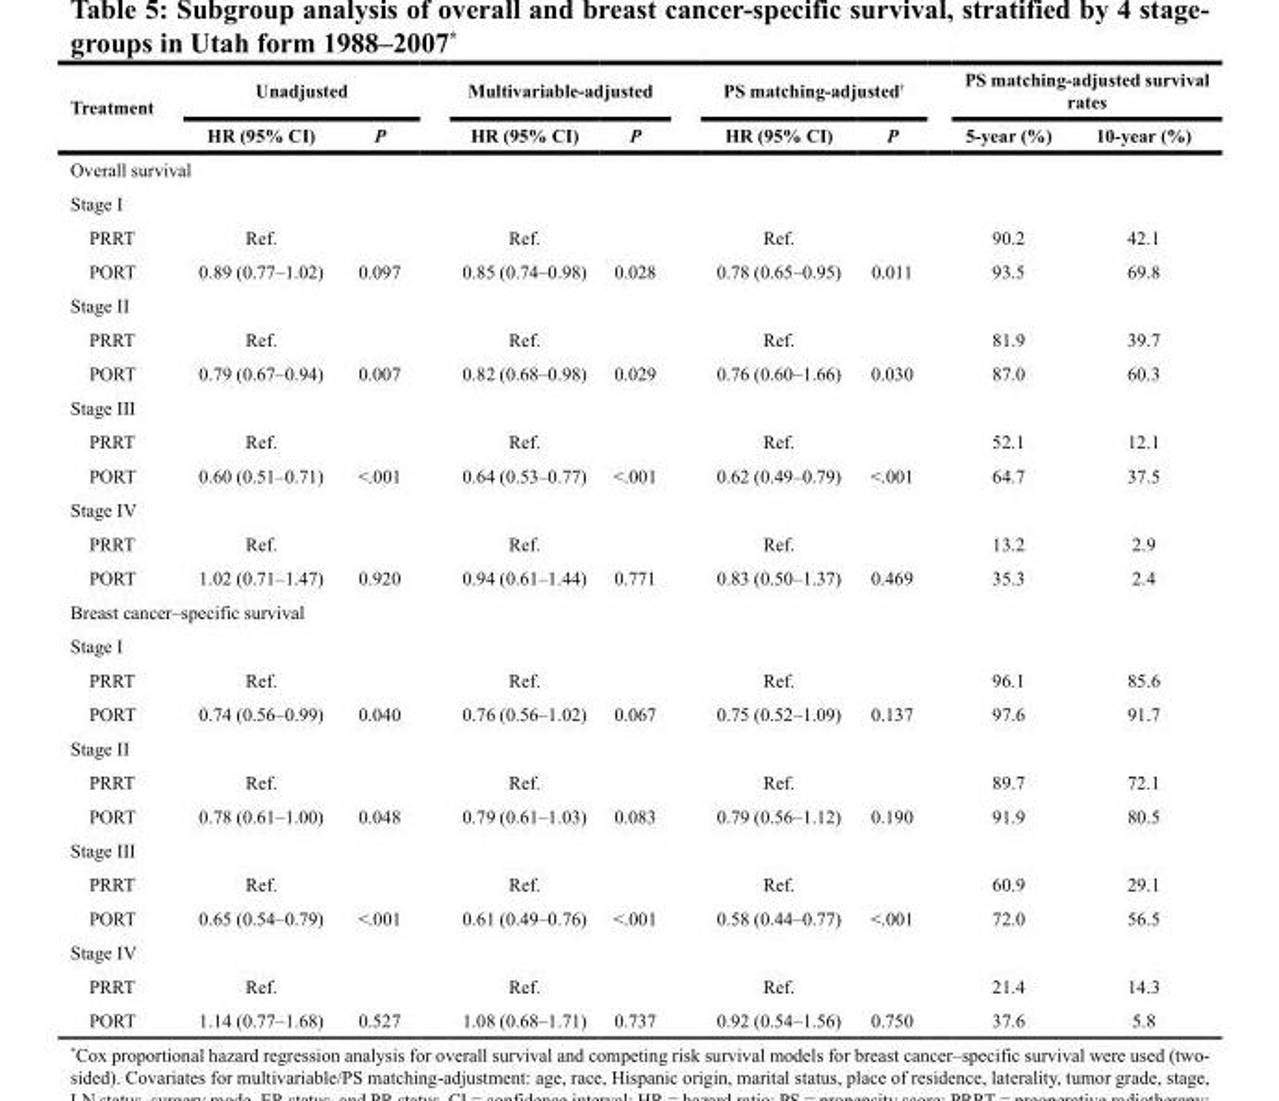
<table><thead><tr><td rowspan="2">Treatment</td><td colspan="2">Unadjusted</td><td colspan="2">Multivariable-adjusted</td><td colspan="2">PS matching-adjusted<sup>†</sup></td><td colspan="2">PS matching-adjusted survival rates</td></tr><tr><td>HR (95% CI)</td><td>P</td><td>HR (95% CI)</td><td>P</td><td>HR (95% CI)</td><td>P</td><td>5-year (%)</td><td>10-year (%)</td></tr></thead><tbody><tr><td colspan="9">Overall survival</td></tr><tr><td colspan="9">Stage I</td></tr><tr><td>PRRT</td><td>Ref.</td><td></td><td>Ref.</td><td></td><td>Ref.</td><td></td><td>90.2</td><td>42.1</td></tr><tr><td>PORT</td><td>0.89 (0.77–1.02)</td><td>0.097</td><td>0.85 (0.74–0.98)</td><td>0.028</td><td>0.78 (0.65–0.95)</td><td>0.011</td><td>93.5</td><td>69.8</td></tr><tr><td colspan="9">Stage II</td></tr><tr><td>PRRT</td><td>Ref.</td><td></td><td>Ref.</td><td></td><td>Ref.</td><td></td><td>81.9</td><td>39.7</td></tr><tr><td>PORT</td><td>0.79 (0.67–0.94)</td><td>0.007</td><td>0.82 (0.68–0.98)</td><td>0.029</td><td>0.76 (0.60–1.66)</td><td>0.030</td><td>87.0</td><td>60.3</td></tr><tr><td colspan="9">Stage III</td></tr><tr><td>PRRT</td><td>Ref.</td><td></td><td>Ref.</td><td></td><td>Ref.</td><td></td><td>52.1</td><td>12.1</td></tr><tr><td>PORT</td><td>0.60 (0.51–0.71)</td><td>&lt;.001</td><td>0.64 (0.53–0.77)</td><td>&lt;.001</td><td>0.62 (0.49–0.79)</td><td>&lt;.001</td><td>64.7</td><td>37.5</td></tr><tr><td colspan="9">Stage IV</td></tr><tr><td>PRRT</td><td>Ref.</td><td></td><td>Ref.</td><td></td><td>Ref.</td><td></td><td>13.2</td><td>2.9</td></tr><tr><td>PORT</td><td>1.02 (0.71–1.47)</td><td>0.920</td><td>0.94 (0.61–1.44)</td><td>0.771</td><td>0.83 (0.50–1.37)</td><td>0.469</td><td>35.3</td><td>2.4</td></tr><tr><td colspan="9">Breast cancer–specific survival</td></tr><tr><td colspan="9">Stage I</td></tr><tr><td>PRRT</td><td>Ref.</td><td></td><td>Ref.</td><td></td><td>Ref.</td><td></td><td>96.1</td><td>85.6</td></tr><tr><td>PORT</td><td>0.74 (0.56–0.99)</td><td>0.040</td><td>0.76 (0.56–1.02)</td><td>0.067</td><td>0.75 (0.52–1.09)</td><td>0.137</td><td>97.6</td><td>91.7</td></tr><tr><td colspan="9">Stage II</td></tr><tr><td>PRRT</td><td>Ref.</td><td></td><td>Ref.</td><td></td><td>Ref.</td><td></td><td>89.7</td><td>72.1</td></tr><tr><td>PORT</td><td>0.78 (0.61–1.00)</td><td>0.048</td><td>0.79 (0.61–1.03)</td><td>0.083</td><td>0.79 (0.56–1.12)</td><td>0.190</td><td>91.9</td><td>80.5</td></tr><tr><td colspan="9">Stage III</td></tr><tr><td>PRRT</td><td>Ref.</td><td></td><td>Ref.</td><td></td><td>Ref.</td><td></td><td>60.9</td><td>29.1</td></tr><tr><td>PORT</td><td>0.65 (0.54–0.79)</td><td>&lt;.001</td><td>0.61 (0.49–0.76)</td><td>&lt;.001</td><td>0.58 (0.44–0.77)</td><td>&lt;.001</td><td>72.0</td><td>56.5</td></tr><tr><td colspan="9">Stage IV</td></tr><tr><td>PRRT</td><td>Ref.</td><td></td><td>Ref.</td><td></td><td>Ref.</td><td></td><td>21.4</td><td>14.3</td></tr><tr><td>PORT</td><td>1.14 (0.77–1.68)</td><td>0.527</td><td>1.08 (0.68–1.71)</td><td>0.737</td><td>0.92 (0.54–1.56)</td><td>0.750</td><td>37.6</td><td>5.8</td></tr></tbody></table>